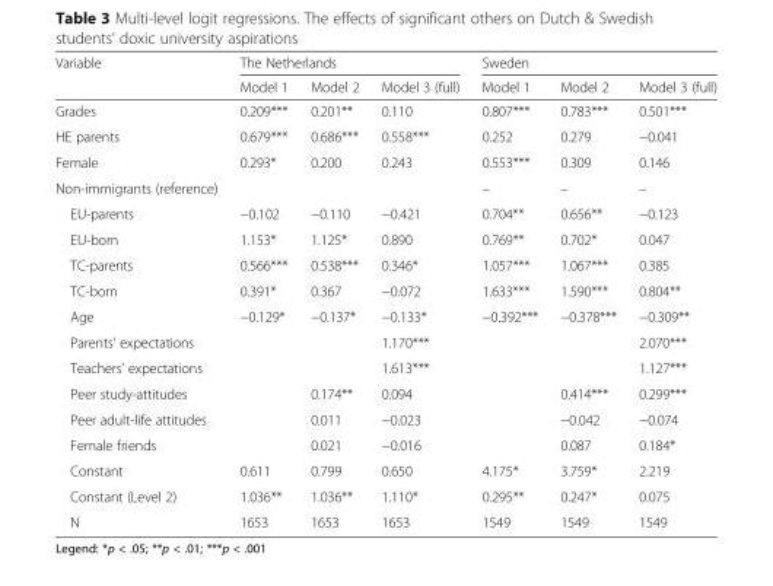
<table><thead><tr><td rowspan="2">Variable</td><td colspan="3">The Netherlands</td><td colspan="3">Sweden</td></tr><tr><td>Model 1</td><td>Model 2</td><td>Model 3 (full)</td><td>Model 1</td><td>Model 2</td><td>Model 3 (full)</td></tr></thead><tbody><tr><td>Grades</td><td>0.209***</td><td>0.201**</td><td>0.110</td><td>0.807***</td><td>0.783***</td><td>0.501***</td></tr><tr><td>HE parents</td><td>0.679***</td><td>0.686***</td><td>0.558***</td><td>0.252</td><td>0.279</td><td>−0.041</td></tr><tr><td>Female</td><td>0.293*</td><td>0.200</td><td>0.243</td><td>0.553***</td><td>0.309</td><td>0.146</td></tr><tr><td>Non-immigrants (reference)</td><td></td><td></td><td></td><td>–</td><td>–</td><td>–</td></tr><tr><td>EU-parents</td><td>−0.102</td><td>−0.110</td><td>−0.421</td><td>0.704**</td><td>0.656**</td><td>−0.123</td></tr><tr><td>EU-born</td><td>1.153*</td><td>1.125*</td><td>0.890</td><td>0.769**</td><td>0.702*</td><td>0.047</td></tr><tr><td>TC-parents</td><td>0.566***</td><td>0.538***</td><td>0.346*</td><td>1.057***</td><td>1.067***</td><td>0.385</td></tr><tr><td>TC-born</td><td>0.391*</td><td>0.367</td><td>−0.072</td><td>1.633***</td><td>1.590***</td><td>0.804**</td></tr><tr><td>Age</td><td>−0.129*</td><td>−0.137*</td><td>−0.133*</td><td>−0.392***</td><td>−0.378***</td><td>−0.309**</td></tr><tr><td>Parents’ expectations</td><td></td><td></td><td>1.170***</td><td></td><td></td><td>2.070***</td></tr><tr><td>Teachers’ expectations</td><td></td><td></td><td>1.613***</td><td></td><td></td><td>1.127***</td></tr><tr><td>Peer study-attitudes</td><td></td><td>0.174**</td><td>0.094</td><td></td><td>0.414***</td><td>0.299***</td></tr><tr><td>Peer adult-life attitudes</td><td></td><td>0.011</td><td>−0.023</td><td></td><td>−0.042</td><td>−0.074</td></tr><tr><td>Female friends</td><td></td><td>0.021</td><td>−0.016</td><td></td><td>0.087</td><td>0.184*</td></tr><tr><td>Constant</td><td>0.611</td><td>0.799</td><td>0.650</td><td>4.175*</td><td>3.759*</td><td>2.219</td></tr><tr><td>Constant (Level 2)</td><td>1.036**</td><td>1.036**</td><td>1.110*</td><td>0.295**</td><td>0.247*</td><td>0.075</td></tr><tr><td>N</td><td>1653</td><td>1653</td><td>1653</td><td>1549</td><td>1549</td><td>1549</td></tr></tbody></table>